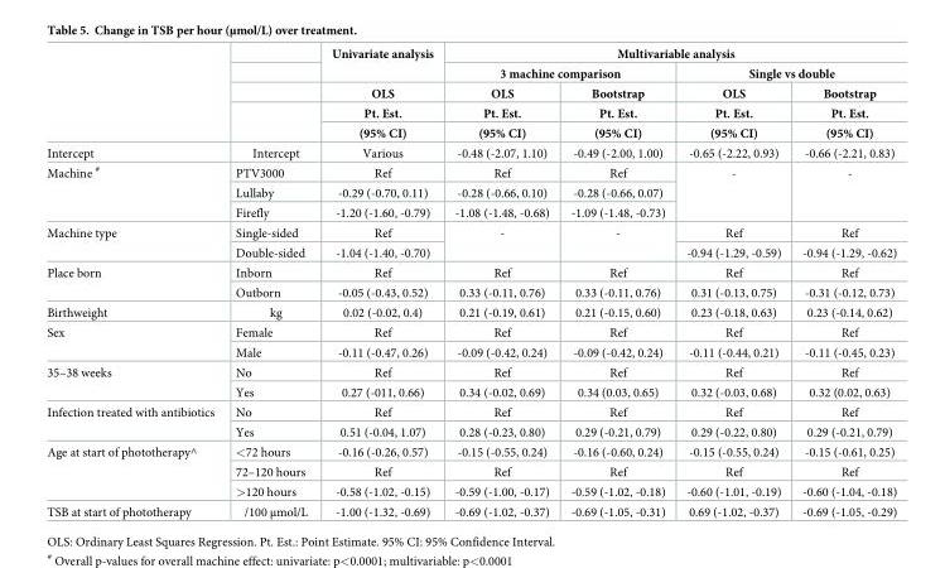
<table><thead><tr><td rowspan="5"></td><td rowspan="5"></td><td rowspan="5">Univariate analysis OLS Pt. Est. (95% CI)</td><td colspan="4">Multivariable analysis</td></tr><tr><td colspan="2">3 machine comparison</td><td colspan="2">Single vs double</td></tr><tr><td rowspan="3">OLS Pt. Est. (95% CI)</td><td rowspan="3">Bootstrap Pt. Est. (95% CI)</td><td rowspan="3">OLS Pt. Est. (95% CI)</td><td rowspan="3">Bootstrap Pt. Est. (95% CI)</td></tr><tr></tr><tr></tr></thead><tbody><tr><td>Intercept</td><td>Intercept</td><td>Various</td><td>-0.48 (-2.07, 1.10)</td><td>-0.49 (-2.00, 1.00)</td><td>-0.65 (-2.22, 0.93)</td><td>-0.66 (-2.21, 0.83)</td></tr><tr><td rowspan="3">Machine <sup>#</sup></td><td>PTV3000</td><td>Ref</td><td>Ref</td><td>Ref</td><td rowspan="3">-</td><td rowspan="3">-</td></tr><tr><td>Lullaby</td><td>-0.29 (-0.70, 0.11)</td><td>-0.28 (-0.66, 0.10)</td><td>-0.28 (-0.66, 0.07)</td></tr><tr><td>Firefly</td><td>-1.20 (-1.60, -0.79)</td><td>-1.08 (-1.48, -0.68)</td><td>-1.09 (-1.48, -0.73)</td></tr><tr><td rowspan="2">Machine type</td><td>Single-sided</td><td>Ref</td><td rowspan="2">-</td><td rowspan="2">-</td><td>Ref</td><td>Ref</td></tr><tr><td>Double-sided</td><td>-1.04 (-1.40, -0.70)</td><td>-0.94 (-1.29, -0.59)</td><td>-0.94 (-1.29, -0.62)</td></tr><tr><td rowspan="2">Place born</td><td>Inborn</td><td>Ref</td><td>Ref</td><td>Ref</td><td>Ref</td><td>Ref</td></tr><tr><td>Outborn</td><td>-0.05 (-0.43, 0.52)</td><td>0.33 (-0.11, 0.76)</td><td>0.33 (-0.11, 0.76)</td><td>0.31 (-0.13, 0.75)</td><td>-0.31 (-0.12, 0.73)</td></tr><tr><td>Birthweight</td><td>kg</td><td>0.02 (-0.02, 0.4)</td><td>0.21 (-0.19, 0.61)</td><td>0.21 (-0.15, 0.60)</td><td>0.23 (-0.18, 0.63)</td><td>0.23 (-0.14, 0.62)</td></tr><tr><td rowspan="2">Sex</td><td>Female</td><td>Ref</td><td>Ref</td><td>Ref</td><td>Ref</td><td>Ref</td></tr><tr><td>Male</td><td>-0.11 (-0.47, 0.26)</td><td>-0.09 (-0.42, 0.24)</td><td>-0.09 (-0.42, 0.24)</td><td>-0.11 (-0.44, 0.21)</td><td>-0.11 (-0.45, 0.23)</td></tr><tr><td rowspan="2">35–38 weeks</td><td>No</td><td>Ref</td><td>Ref</td><td>Ref</td><td>Ref</td><td>Ref</td></tr><tr><td>Yes</td><td>0.27 (-011, 0.66)</td><td>0.34 (-0.02, 0.69)</td><td>0.34 (0.03, 0.65)</td><td>0.32 (-0.03, 0.68)</td><td>0.32 (0.02, 0.63)</td></tr><tr><td rowspan="2">Infection treated with antibiotics</td><td>No</td><td>Ref</td><td>Ref</td><td>Ref</td><td>Ref</td><td>Ref</td></tr><tr><td>Yes</td><td>0.51 (-0.04, 1.07)</td><td>0.28 (-0.23, 0.80)</td><td>0.29 (-0.21, 0.79)</td><td>0.29 (-0.22, 0.80)</td><td>0.29 (-0.21, 0.79)</td></tr><tr><td rowspan="3">Age at start of phototherapy^</td><td>&lt;72 hours</td><td>-0.16 (-0.26, 0.57)</td><td>-0.15 (-0.55, 0.24)</td><td>-0.16 (-0.60, 0.24)</td><td>-0.15 (-0.55, 0.24)</td><td>-0.15 (-0.61, 0.25)</td></tr><tr><td>72–120 hours</td><td>Ref</td><td>Ref</td><td>Ref</td><td>Ref</td><td>Ref</td></tr><tr><td>&gt;120 hours</td><td>-0.58 (-1.02, -0.15)</td><td>-0.59 (-1.00, -0.17)</td><td>-0.59 (-1.02, -0.18)</td><td>-0.60 (-1.01, -0.19)</td><td>-0.60 (-1.04, -0.18)</td></tr><tr><td>TSB at start of phototherapy</td><td>/100 μmol/L</td><td>-1.00 (-1.32, -0.69)</td><td>-0.69 (-1.02, -0.37)</td><td>-0.69 (-1.05, -0.31)</td><td>0.69 (-1.02, -0.37)</td><td>-0.69 (-1.05, -0.29)</td></tr></tbody></table>